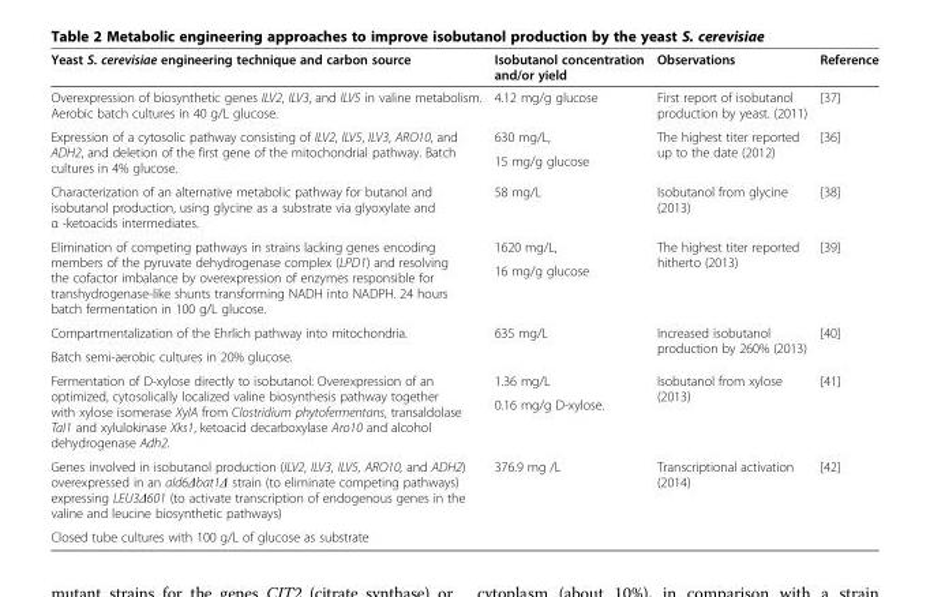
<table><thead><tr><td>Yeast S. cerevisiae engineering technique and carbon source</td><td>Isobutanol concentration and/or yield</td><td>Observations</td><td>Reference</td></tr></thead><tbody><tr><td>Overexpression of biosynthetic genes ILV2, ILV3, and ILV5 in valine metabolism. Aerobic batch cultures in 40 g/L glucose.</td><td>4.12 mg/g glucose</td><td>First report of isobutanol production by yeast. (2011)</td><td>[37]</td></tr><tr><td rowspan="2">Expression of a cytosolic pathway consisting of ILV2, ILV5, ILV3, ARO10, and ADH2, and deletion of the first gene of the mitochondrial pathway. Batch cultures in 4% glucose.</td><td>630 mg/L,</td><td rowspan="2">The highest titer reported up to the date (2012)</td><td rowspan="2">[36]</td></tr><tr><td>15 mg/g glucose</td></tr><tr><td>Characterization of an alternative metabolic pathway for butanol and isobutanol production, using glycine as a substrate via glyoxylate and α -ketoacids intermediates.</td><td>58 mg/L</td><td>Isobutanol from glycine (2013)</td><td>[38]</td></tr><tr><td rowspan="2">Elimination of competing pathways in strains lacking genes encoding members of the pyruvate dehydrogenase complex (LPD1) and resolving the cofactor imbalance by overexpression of enzymes responsible for transhydrogenase-like shunts transforming NADH into NADPH. 24 hours batch fermentation in 100 g/L glucose.</td><td>1620 mg/L,</td><td rowspan="2">The highest titer reported hitherto (2013)</td><td rowspan="2">[39]</td></tr><tr><td>16 mg/g glucose</td></tr><tr><td>Compartmentalization of the Ehrlich pathway into mitochondria.</td><td rowspan="2">635 mg/L</td><td rowspan="2">Increased isobutanol production by 260% (2013)</td><td rowspan="2">[40]</td></tr><tr><td>Batch semi-aerobic cultures in 20% glucose.</td></tr><tr><td rowspan="2">Fermentation of D-xylose directly to isobutanol: Overexpression of an optimized, cytosolically localized valine biosynthesis pathway together with xylose isomerase XylA from Clostridium phytofermentans, transaldolase Tal1 and xylulokinase Xks1, ketoacid decarboxylase Aro10 and alcohol dehydrogenase Adh2.</td><td>1.36 mg/L</td><td rowspan="2">Isobutanol from xylose (2013)</td><td rowspan="2">[41]</td></tr><tr><td>0.16 mg/g D-xylose.</td></tr><tr><td>Genes involved in isobutanol production (ILV2, ILV3, ILV5, ARO10, and ADH2) overexpressed in an ald6Δbat1Δ strain (to eliminate competing pathways) expressing LEU3Δ601 (to activate transcription of endogenous genes in the valine and leucine biosynthetic pathways)</td><td rowspan="2">376.9 mg /L</td><td rowspan="2">Transcriptional activation (2014)</td><td rowspan="2">[42]</td></tr><tr><td>Closed tube cultures with 100 g/L of glucose as substrate</td></tr></tbody></table>